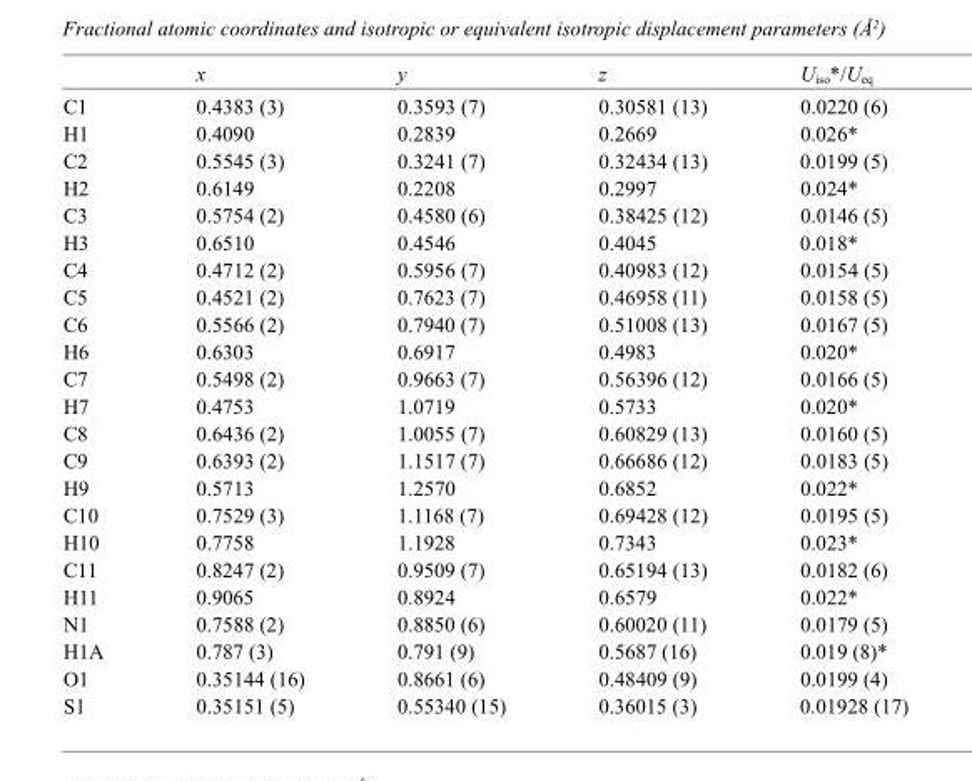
<table><thead><tr><td></td><td>x</td><td>y</td><td>z</td><td>U<sub>iso</sub>*/U<sub>eq</sub></td></tr></thead><tbody><tr><td>C1</td><td>0.4383 (3)</td><td>0.3593 (7)</td><td>0.30581 (13)</td><td>0.0220 (6)</td></tr><tr><td>H1</td><td>0.4090</td><td>0.2839</td><td>0.2669</td><td>0.026*</td></tr><tr><td>C2</td><td>0.5545 (3)</td><td>0.3241 (7)</td><td>0.32434 (13)</td><td>0.0199 (5)</td></tr><tr><td>H2</td><td>0.6149</td><td>0.2208</td><td>0.2997</td><td>0.024*</td></tr><tr><td>C3</td><td>0.5754 (2)</td><td>0.4580 (6)</td><td>0.38425 (12)</td><td>0.0146 (5)</td></tr><tr><td>H3</td><td>0.6510</td><td>0.4546</td><td>0.4045</td><td>0.018*</td></tr><tr><td>C4</td><td>0.4712 (2)</td><td>0.5956 (7)</td><td>0.40983 (12)</td><td>0.0154 (5)</td></tr><tr><td>C5</td><td>0.4521 (2)</td><td>0.7623 (7)</td><td>0.46958 (11)</td><td>0.0158 (5)</td></tr><tr><td>C6</td><td>0.5566 (2)</td><td>0.7940 (7)</td><td>0.51008 (13)</td><td>0.0167 (5)</td></tr><tr><td>H6</td><td>0.6303</td><td>0.6917</td><td>0.4983</td><td>0.020*</td></tr><tr><td>C7</td><td>0.5498 (2)</td><td>0.9663 (7)</td><td>0.56396 (12)</td><td>0.0166 (5)</td></tr><tr><td>H7</td><td>0.4753</td><td>1.0719</td><td>0.5733</td><td>0.020*</td></tr><tr><td>C8</td><td>0.6436 (2)</td><td>1.0055 (7)</td><td>0.60829 (13)</td><td>0.0160 (5)</td></tr><tr><td>C9</td><td>0.6393 (2)</td><td>1.1517 (7)</td><td>0.66686 (12)</td><td>0.0183 (5)</td></tr><tr><td>H9</td><td>0.5713</td><td>1.2570</td><td>0.6852</td><td>0.022*</td></tr><tr><td>C10</td><td>0.7529 (3)</td><td>1.1168 (7)</td><td>0.69428 (12)</td><td>0.0195 (5)</td></tr><tr><td>H10</td><td>0.7758</td><td>1.1928</td><td>0.7343</td><td>0.023*</td></tr><tr><td>C11</td><td>0.8247 (2)</td><td>0.9509 (7)</td><td>0.65194 (13)</td><td>0.0182 (6)</td></tr><tr><td>H11</td><td>0.9065</td><td>0.8924</td><td>0.6579</td><td>0.022*</td></tr><tr><td>N1</td><td>0.7588 (2)</td><td>0.8850 (6)</td><td>0.60020 (11)</td><td>0.0179 (5)</td></tr><tr><td>H1A</td><td>0.787 (3)</td><td>0.791 (9)</td><td>0.5687 (16)</td><td>0.019 (8)*</td></tr><tr><td>O1</td><td>0.35144 (16)</td><td>0.8661 (6)</td><td>0.48409 (9)</td><td>0.0199 (4)</td></tr><tr><td>S1</td><td>0.35151 (5)</td><td>0.55340 (15)</td><td>0.36015 (3)</td><td>0.01928 (17)</td></tr></tbody></table>